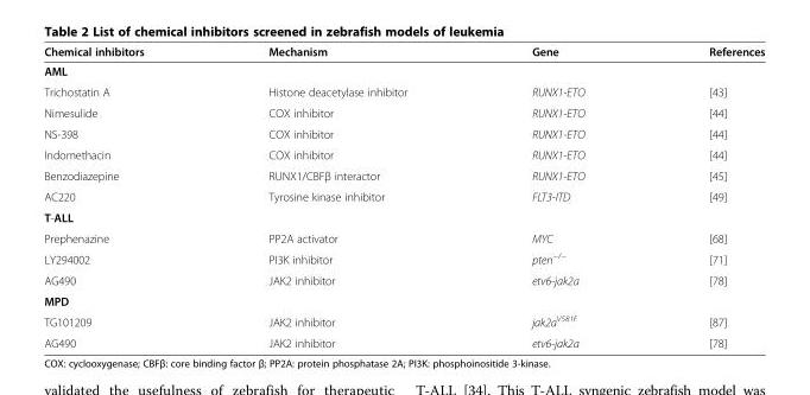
<table><thead><tr><td>Chemical inhibitors</td><td>Mechanism</td><td>Gene</td><td>References</td></tr></thead><tbody><tr><td colspan="4">AML</td></tr><tr><td>Trichostatin A</td><td>Histone deacetylase inhibitor</td><td>RUNX1-ETO</td><td>[43]</td></tr><tr><td>Nimesulide</td><td>COX inhibitor</td><td>RUNX1-ETO</td><td>[44]</td></tr><tr><td>NS-398</td><td>COX inhibitor</td><td>RUNX1-ETO</td><td>[44]</td></tr><tr><td>Indomethacin</td><td>COX inhibitor</td><td>RUNX1-ETO</td><td>[44]</td></tr><tr><td>Benzodiazepine</td><td>RUNX1/CBFβ interactor</td><td>RUNX1-ETO</td><td>[45]</td></tr><tr><td>AC220</td><td>Tyrosine kinase inhibitor</td><td>FLT3-ITD</td><td>[49]</td></tr><tr><td colspan="4">T-ALL</td></tr><tr><td>Prephenazine</td><td>PP2A activator</td><td>MYC</td><td>[68]</td></tr><tr><td>LY294002</td><td>PI3K inhibitor</td><td>pten<sup>−/−</sup></td><td>[71]</td></tr><tr><td>AG490</td><td>JAK2 inhibitor</td><td>etv6-jak2a</td><td>[78]</td></tr><tr><td colspan="4">MPD</td></tr><tr><td>TG101209</td><td>JAK2 inhibitor</td><td>jak2a<sup>V581F</sup></td><td>[87]</td></tr><tr><td>AG490</td><td>JAK2 inhibitor</td><td>etv6-jak2a</td><td>[78]</td></tr></tbody></table>